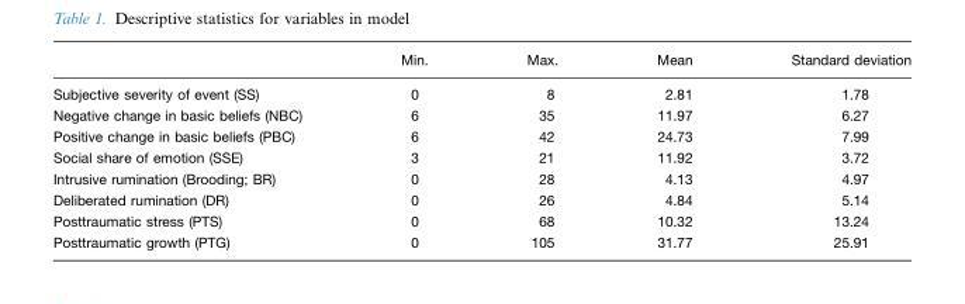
<table><thead><tr><td></td><td>Min.</td><td>Max.</td><td>Mean</td><td>Standard deviation</td></tr></thead><tbody><tr><td>Subjective severity of event (SS)</td><td>0</td><td>8</td><td>2.81</td><td>1.78</td></tr><tr><td>Negative change in basic beliefs (NBC)</td><td>6</td><td>35</td><td>11.97</td><td>6.27</td></tr><tr><td>Positive change in basic beliefs (PBC)</td><td>6</td><td>42</td><td>24.73</td><td>7.99</td></tr><tr><td>Social share of emotion (SSE)</td><td>3</td><td>21</td><td>11.92</td><td>3.72</td></tr><tr><td>Intrusive rumination (Brooding; BR)</td><td>0</td><td>28</td><td>4.13</td><td>4.97</td></tr><tr><td>Deliberated rumination (DR)</td><td>0</td><td>26</td><td>4.84</td><td>5.14</td></tr><tr><td>Posttraumatic stress (PTS)</td><td>0</td><td>68</td><td>10.32</td><td>13.24</td></tr><tr><td>Posttraumatic growth (PTG)</td><td>0</td><td>105</td><td>31.77</td><td>25.91</td></tr></tbody></table>